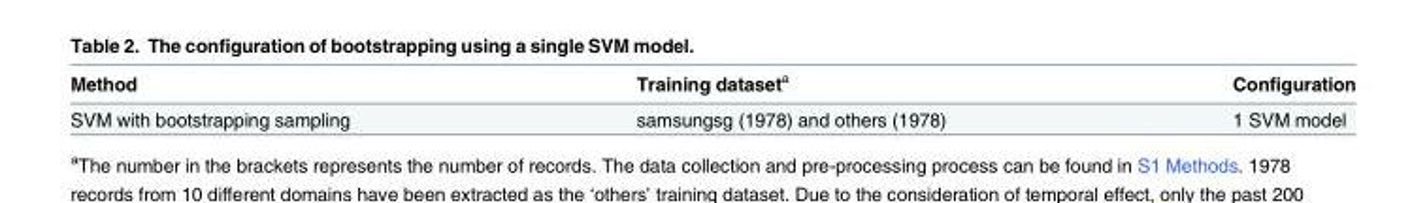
<table><thead><tr><td>Method</td><td>Training dataset<sup>a</sup></td><td>Configuration</td></tr></thead><tbody><tr><td>SVM with bootstrapping sampling</td><td>samsungsg (1978) and others (1978)</td><td>1 SVM model</td></tr></tbody></table>